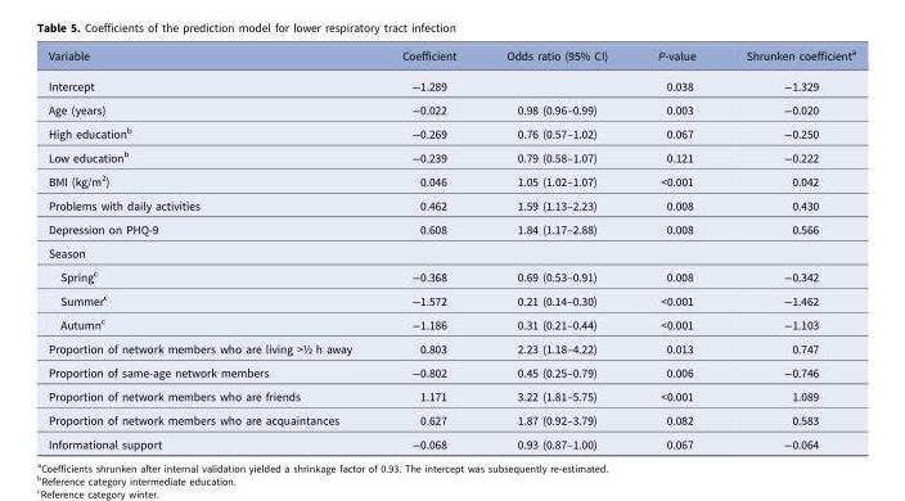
<table><thead><tr><td>Variable</td><td>Coefficient</td><td>Odds ratio (95% CI)</td><td>P-value</td><td>Shrunken coefficient<sup>a</sup></td></tr></thead><tbody><tr><td>Intercept</td><td>−1.289</td><td></td><td>0.038</td><td>−1.329</td></tr><tr><td>Age (years)</td><td>−0.022</td><td>0.98 (0.96–0.99)</td><td>0.003</td><td>−0.020</td></tr><tr><td>High education<sup>b</sup></td><td>−0.269</td><td>0.76 (0.57–1.02)</td><td>0.067</td><td>−0.250</td></tr><tr><td>Low education<sup>b</sup></td><td>−0.239</td><td>0.79 (0.58–1.07)</td><td>0.121</td><td>−0.222</td></tr><tr><td>BMI (kg/m<sup>2</sup>)</td><td>0.046</td><td>1.05 (1.02–1.07)</td><td>&lt;0.001</td><td>0.042</td></tr><tr><td>Problems with daily activities</td><td>0.462</td><td>1.59 (1.13–2.23)</td><td>0.008</td><td>0.430</td></tr><tr><td>Depression on PHQ-9</td><td>0.608</td><td>1.84 (1.17–2.88)</td><td>0.008</td><td>0.566</td></tr><tr><td colspan="5">Season</td></tr><tr><td>Spring<sup>c</sup></td><td>−0.368</td><td>0.69 (0.53–0.91)</td><td>0.008</td><td>−0.342</td></tr><tr><td>Summer<sup>c</sup></td><td>−1.572</td><td>0.21 (0.14–0.30)</td><td>&lt;0.001</td><td>−1.462</td></tr><tr><td>Autumn<sup>c</sup></td><td>−1.186</td><td>0.31 (0.21–0.44)</td><td>&lt;0.001</td><td>−1.103</td></tr><tr><td>Proportion of network members who are living &gt;½ h away</td><td>0.803</td><td>2.23 (1.18–4.22)</td><td>0.013</td><td>0.747</td></tr><tr><td>Proportion of same-age network members</td><td>−0.802</td><td>0.45 (0.25–0.79)</td><td>0.006</td><td>−0.746</td></tr><tr><td>Proportion of network members who are friends</td><td>1.171</td><td>3.22 (1.81–5.75)</td><td>&lt;0.001</td><td>1.089</td></tr><tr><td>Proportion of network members who are acquaintances</td><td>0.627</td><td>1.87 (0.92–3.79)</td><td>0.082</td><td>0.583</td></tr><tr><td>Informational support</td><td>−0.068</td><td>0.93 (0.87–1.00)</td><td>0.067</td><td>−0.064</td></tr></tbody></table>